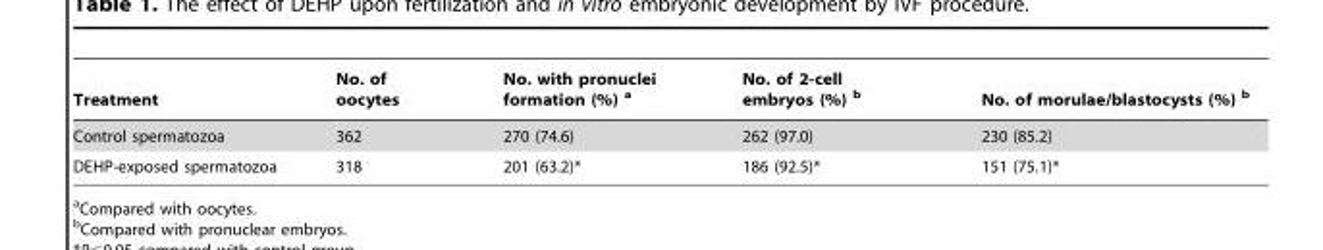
<table><thead><tr><td>Treatment</td><td>No. of oocytes</td><td>No. with pronuclei formation (%) a</td><td>No. of 2-cell embryos (%) b</td><td>No. of morulae/blastocysts (%) b</td></tr></thead><tbody><tr><td>Control spermatozoa</td><td>362</td><td>270 (74.6)</td><td>262 (97.0)</td><td>230 (85.2)</td></tr><tr><td>DEHP-exposed spermatozoa</td><td>318</td><td>201 (63.2)*</td><td>186 (92.5)*</td><td>151 (75.1)*</td></tr></tbody></table>